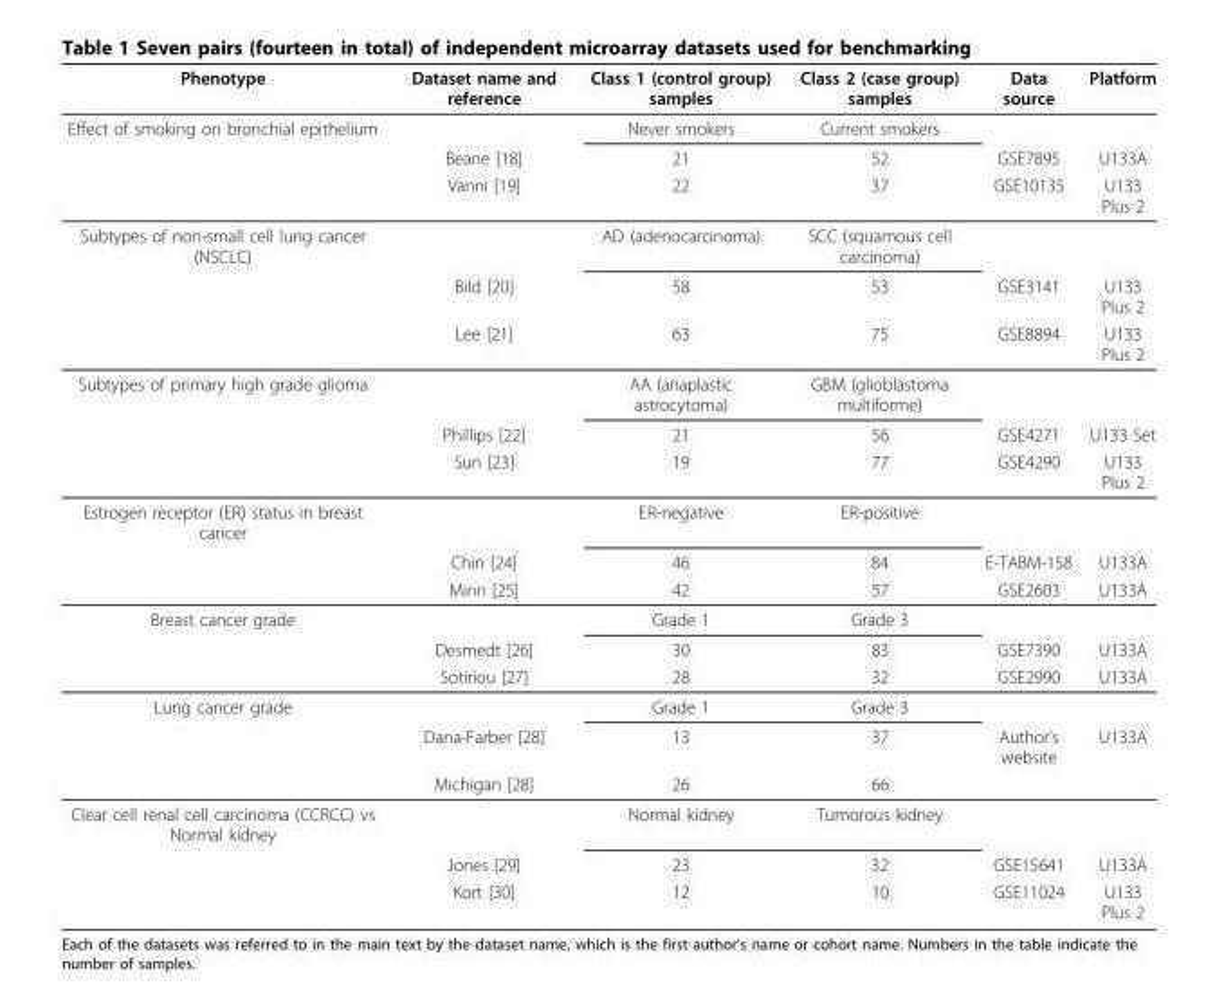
<table><thead><tr><td>Phenotype</td><td>Dataset name and reference</td><td>Class 1 (control group) samples</td><td>Class 2 (case group) samples</td><td>Data source</td><td>Platform</td></tr></thead><tbody><tr><td rowspan="3">Effect of smoking on bronchial epithelium</td><td></td><td>Never smokers</td><td>Current smokers</td><td></td><td></td></tr><tr><td>Beane [18]</td><td>21</td><td>52</td><td>GSE7895</td><td>U133A</td></tr><tr><td>Vanni [19]</td><td>22</td><td>37</td><td>GSE10135</td><td>U133 Plus 2</td></tr><tr><td rowspan="3">Subtypes of non-small cell lung cancer (NSCLC)</td><td></td><td>AD (adenocarcinoma)</td><td>SCC (squamous cell carcinoma)</td><td></td><td></td></tr><tr><td>Bild [20]</td><td>58</td><td>53</td><td>GSE3141</td><td>U133 Plus 2</td></tr><tr><td>Lee [21]</td><td>63</td><td>75</td><td>GSE8894</td><td>U133 Plus 2</td></tr><tr><td rowspan="3">Subtypes of primary high grade glioma</td><td></td><td>AA (anaplastic astrocytoma)</td><td>GBM (glioblastoma multiforme)</td><td></td><td></td></tr><tr><td>Phillips [22]</td><td>21</td><td>56</td><td>GSE4271</td><td>U133 Set</td></tr><tr><td>Sun [23]</td><td>19</td><td>77</td><td>GSE4290</td><td>U133 Plus 2</td></tr><tr><td rowspan="3">Estrogen receptor (ER) status in breast cancer</td><td></td><td>ER-negative</td><td>ER-positive</td><td></td><td></td></tr><tr><td>Chin [24]</td><td>46</td><td>84</td><td>E-TABM-158</td><td>U133A</td></tr><tr><td>Minn [25]</td><td>42</td><td>57</td><td>GSE2603</td><td>U133A</td></tr><tr><td rowspan="3">Breast cancer grade</td><td></td><td>Grade 1</td><td>Grade 3</td><td></td><td></td></tr><tr><td>Desmedt [26]</td><td>30</td><td>83</td><td>GSE7390</td><td>U133A</td></tr><tr><td>Sotiriou [27]</td><td>28</td><td>32</td><td>GSE2990</td><td>U133A</td></tr><tr><td rowspan="3">Lung cancer grade</td><td></td><td>Grade 1</td><td>Grade 3</td><td></td><td></td></tr><tr><td>Dana-Farber [28]</td><td>13</td><td>37</td><td>Author’s website</td><td>U133A</td></tr><tr><td>Michigan [28]</td><td>26</td><td>66</td><td></td><td></td></tr><tr><td rowspan="3">Clear cell renal cell carcinoma (CCRCC) vs Normal kidney</td><td></td><td>Normal kidney</td><td>Tumorous kidney</td><td></td><td></td></tr><tr><td>Jones [29]</td><td>23</td><td>32</td><td>GSE15641</td><td>U133A</td></tr><tr><td>Kort [30]</td><td>12</td><td>10</td><td>GSE11024</td><td>U133 Plus 2</td></tr></tbody></table>